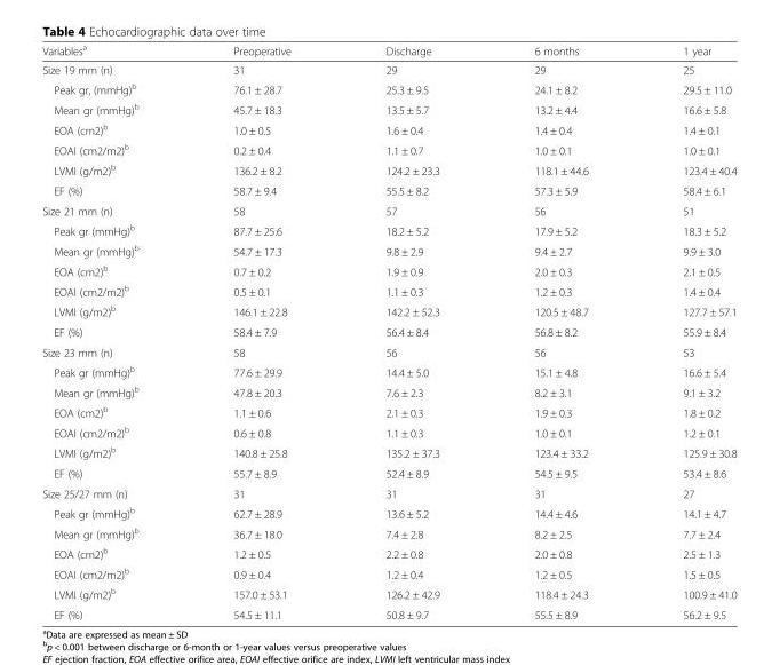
<table><thead><tr><td>Variables<sup>a</sup></td><td>Preoperative</td><td>Discharge</td><td>6 months</td><td>1 year</td></tr></thead><tbody><tr><td>Size 19 mm (n)</td><td>31</td><td>29</td><td>29</td><td>25</td></tr><tr><td>Peak gr, (mmHg)<sup>b</sup></td><td>76.1 ± 28.7</td><td>25.3 ± 9.5</td><td>24.1 ± 8.2</td><td>29.5 ± 11.0</td></tr><tr><td>Mean gr (mmHg)<sup>b</sup></td><td>45.7 ± 18.3</td><td>13.5 ± 5.7</td><td>13.2 ± 4.4</td><td>16.6 ± 5.8</td></tr><tr><td>EOA (cm2)<sup>b</sup></td><td>1.0 ± 0.5</td><td>1.6 ± 0.4</td><td>1.4 ± 0.4</td><td>1.4 ± 0.1</td></tr><tr><td>EOAI (cm2/m2)<sup>b</sup></td><td>0.2 ± 0.4</td><td>1.1 ± 0.7</td><td>1.0 ± 0.1</td><td>1.0 ± 0.1</td></tr><tr><td>LVMI (g/m2)<sup>b</sup></td><td>136.2 ± 8.2</td><td>124.2 ± 23.3</td><td>118.1 ± 44.6</td><td>123.4 ± 40.4</td></tr><tr><td>EF (%)</td><td>58.7 ± 9.4</td><td>55.5 ± 8.2</td><td>57.3 ± 5.9</td><td>58.4 ± 6.1</td></tr><tr><td>Size 21 mm (n)</td><td>58</td><td>57</td><td>56</td><td>51</td></tr><tr><td>Peak gr (mmHg)<sup>b</sup></td><td>87.7 ± 25.6</td><td>18.2 ± 5.2</td><td>17.9 ± 5.2</td><td>18.3 ± 5.2</td></tr><tr><td>Mean gr (mmHg)<sup>b</sup></td><td>54.7 ± 17.3</td><td>9.8 ± 2.9</td><td>9.4 ± 2.7</td><td>9.9 ± 3.0</td></tr><tr><td>EOA (cm2)<sup>b</sup></td><td>0.7 ± 0.2</td><td>1.9 ± 0.9</td><td>2.0 ± 0.3</td><td>2.1 ± 0.5</td></tr><tr><td>EOAI (cm2/m2)<sup>b</sup></td><td>0.5 ± 0.1</td><td>1.1 ± 0.3</td><td>1.2 ± 0.3</td><td>1.4 ± 0.4</td></tr><tr><td>LVMI (g/m2)<sup>b</sup></td><td>146.1 ± 22.8</td><td>142.2 ± 52.3</td><td>120.5 ± 48.7</td><td>127.7 ± 57.1</td></tr><tr><td>EF (%)</td><td>58.4 ± 7.9</td><td>56.4 ± 8.4</td><td>56.8 ± 8.2</td><td>55.9 ± 8.4</td></tr><tr><td>Size 23 mm (n)</td><td>58</td><td>56</td><td>56</td><td>53</td></tr><tr><td>Peak gr (mmHg)<sup>b</sup></td><td>77.6 ± 29.9</td><td>14.4 ± 5.0</td><td>15.1 ± 4.8</td><td>16.6 ± 5.4</td></tr><tr><td>Mean gr (mmHg)<sup>b</sup></td><td>47.8 ± 20.3</td><td>7.6 ± 2.3</td><td>8.2 ± 3.1</td><td>9.1 ± 3.2</td></tr><tr><td>EOA (cm2)<sup>b</sup></td><td>1.1 ± 0.6</td><td>2.1 ± 0.3</td><td>1.9 ± 0.3</td><td>1.8 ± 0.2</td></tr><tr><td>EOAI (cm2/m2)<sup>b</sup></td><td>0.6 ± 0.8</td><td>1.1 ± 0.3</td><td>1.0 ± 0.1</td><td>1.2 ± 0.1</td></tr><tr><td>LVMI (g/m2)<sup>b</sup></td><td>140.8 ± 25.8</td><td>135.2 ± 37.3</td><td>123.4 ± 33.2</td><td>125.9 ± 30.8</td></tr><tr><td>EF (%)</td><td>55.7 ± 8.9</td><td>52.4 ± 8.9</td><td>54.5 ± 9.5</td><td>53.4 ± 8.6</td></tr><tr><td>Size 25/27 mm (n)</td><td>31</td><td>31</td><td>31</td><td>27</td></tr><tr><td>Peak gr (mmHg)<sup>b</sup></td><td>62.7 ± 28.9</td><td>13.6 ± 5.2</td><td>14.4 ± 4.6</td><td>14.1 ± 4.7</td></tr><tr><td>Mean gr (mmHg)<sup>b</sup></td><td>36.7 ± 18.0</td><td>7.4 ± 2.8</td><td>8.2 ± 2.5</td><td>7.7 ± 2.4</td></tr><tr><td>EOA (cm2)<sup>b</sup></td><td>1.2 ± 0.5</td><td>2.2 ± 0.8</td><td>2.0 ± 0.8</td><td>2.5 ± 1.3</td></tr><tr><td>EOAI (cm2/m2)<sup>b</sup></td><td>0.9 ± 0.4</td><td>1.2 ± 0.4</td><td>1.2 ± 0.5</td><td>1.5 ± 0.5</td></tr><tr><td>LVMI (g/m2)<sup>b</sup></td><td>157.0 ± 53.1</td><td>126.2 ± 42.9</td><td>118.4 ± 24.3</td><td>100.9 ± 41.0</td></tr><tr><td>EF (%)</td><td>54.5 ± 11.1</td><td>50.8 ± 9.7</td><td>55.5 ± 8.9</td><td>56.2 ± 9.5</td></tr></tbody></table>